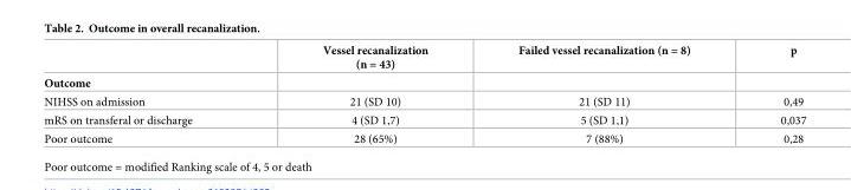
<table><thead><tr><td></td><td>Vessel recanalization (n = 43)</td><td>Failed vessel recanalization (n = 8)</td><td>p</td></tr></thead><tbody><tr><td colspan="4">Outcome</td></tr><tr><td>NIHSS on admission</td><td>21 (SD 10)</td><td>21 (SD 11)</td><td>0,49</td></tr><tr><td>mRS on transferal or discharge</td><td>4 (SD 1,7)</td><td>5 (SD 1,1)</td><td>0,037</td></tr><tr><td>Poor outcome</td><td>28 (65%)</td><td>7 (88%)</td><td>0,28</td></tr></tbody></table>